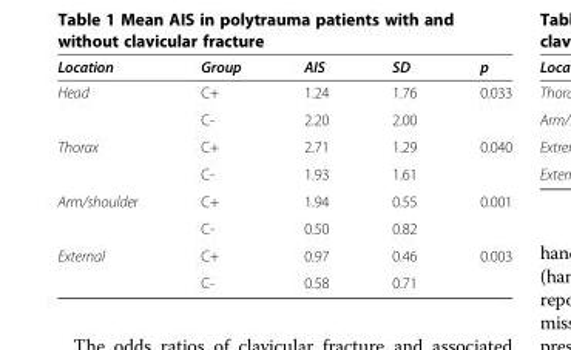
<table><thead><tr><td>Location</td><td>Group</td><td>AIS</td><td>SD</td><td>p</td></tr></thead><tbody><tr><td rowspan="2">Head</td><td>C+</td><td>1.24</td><td>1.76</td><td rowspan="2">0.033</td></tr><tr><td>C-</td><td>2.20</td><td>2.00</td></tr><tr><td rowspan="2">Thorax</td><td>C+</td><td>2.71</td><td>1.29</td><td rowspan="2">0.040</td></tr><tr><td>C-</td><td>1.93</td><td>1.61</td></tr><tr><td rowspan="2">Arm/shoulder</td><td>C+</td><td>1.94</td><td>0.55</td><td rowspan="2">0.001</td></tr><tr><td>C-</td><td>0.50</td><td>0.82</td></tr><tr><td rowspan="2">External</td><td>C+</td><td>0.97</td><td>0.46</td><td rowspan="2">0.003</td></tr><tr><td>C-</td><td>0.58</td><td>0.71</td></tr></tbody></table>